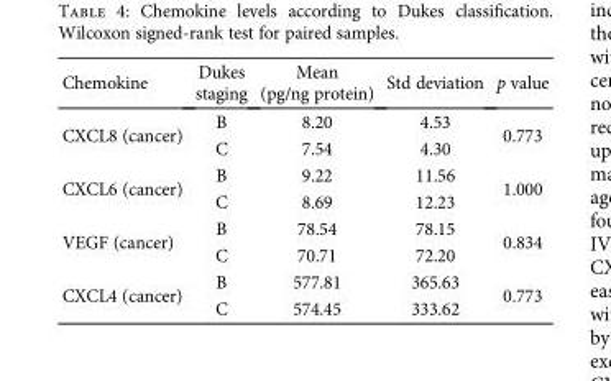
<table><thead><tr><td>Chemokine</td><td>Dukes staging</td><td>Mean (pg/ng protein)</td><td>Std deviation</td><td>p value</td></tr></thead><tbody><tr><td rowspan="2">CXCL8 (cancer)</td><td>B</td><td>8.20</td><td>4.53</td><td rowspan="2">0.773</td></tr><tr><td>C</td><td>7.54</td><td>4.30</td></tr><tr><td rowspan="2">CXCL6 (cancer)</td><td>B</td><td>9.22</td><td>11.56</td><td rowspan="2">1.000</td></tr><tr><td>C</td><td>8.69</td><td>12.23</td></tr><tr><td rowspan="2">VEGF (cancer)</td><td>B</td><td>78.54</td><td>78.15</td><td rowspan="2">0.834</td></tr><tr><td>C</td><td>70.71</td><td>72.20</td></tr><tr><td rowspan="2">CXCL4 (cancer)</td><td>B</td><td>577.81</td><td>365.63</td><td rowspan="2">0.773</td></tr><tr><td>C</td><td>574.45</td><td>333.62</td></tr></tbody></table>